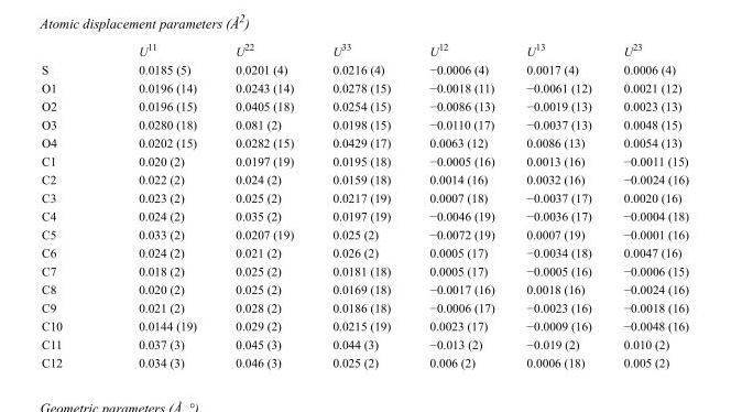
<table><thead><tr><td></td><td>U<sup>11</sup></td><td>U<sup>22</sup></td><td>U<sup>33</sup></td><td>U<sup>12</sup></td><td>U<sup>13</sup></td><td>U<sup>23</sup></td></tr></thead><tbody><tr><td>S</td><td>0.0185 (5)</td><td>0.0201 (4)</td><td>0.0216 (4)</td><td>−0.0006 (4)</td><td>0.0017 (4)</td><td>0.0006 (4)</td></tr><tr><td>O1</td><td>0.0196 (14)</td><td>0.0243 (14)</td><td>0.0278 (15)</td><td>−0.0018 (11)</td><td>−0.0061 (12)</td><td>0.0021 (12)</td></tr><tr><td>O2</td><td>0.0196 (15)</td><td>0.0405 (18)</td><td>0.0254 (15)</td><td>−0.0086 (13)</td><td>−0.0019 (13)</td><td>0.0023 (13)</td></tr><tr><td>O3</td><td>0.0280 (18)</td><td>0.081 (2)</td><td>0.0198 (15)</td><td>−0.0110 (17)</td><td>−0.0037 (13)</td><td>0.0048 (15)</td></tr><tr><td>O4</td><td>0.0202 (15)</td><td>0.0282 (15)</td><td>0.0429 (17)</td><td>0.0063 (12)</td><td>0.0086 (13)</td><td>0.0054 (13)</td></tr><tr><td>C1</td><td>0.020 (2)</td><td>0.0197 (19)</td><td>0.0195 (18)</td><td>−0.0005 (16)</td><td>0.0013 (16)</td><td>−0.0011 (15)</td></tr><tr><td>C2</td><td>0.022 (2)</td><td>0.024 (2)</td><td>0.0159 (18)</td><td>0.0014 (16)</td><td>0.0032 (16)</td><td>−0.0024 (16)</td></tr><tr><td>C3</td><td>0.023 (2)</td><td>0.025 (2)</td><td>0.0217 (19)</td><td>0.0007 (18)</td><td>−0.0037 (17)</td><td>0.0020 (16)</td></tr><tr><td>C4</td><td>0.024 (2)</td><td>0.035 (2)</td><td>0.0197 (19)</td><td>−0.0046 (19)</td><td>−0.0036 (17)</td><td>−0.0004 (18)</td></tr><tr><td>C5</td><td>0.033 (2)</td><td>0.0207 (19)</td><td>0.025 (2)</td><td>−0.0072 (19)</td><td>0.0007 (19)</td><td>−0.0001 (16)</td></tr><tr><td>C6</td><td>0.024 (2)</td><td>0.021 (2)</td><td>0.026 (2)</td><td>0.0005 (17)</td><td>−0.0034 (18)</td><td>0.0047 (16)</td></tr><tr><td>C7</td><td>0.018 (2)</td><td>0.025 (2)</td><td>0.0181 (18)</td><td>0.0005 (17)</td><td>−0.0005 (16)</td><td>−0.0006 (15)</td></tr><tr><td>C8</td><td>0.020 (2)</td><td>0.025 (2)</td><td>0.0169 (18)</td><td>−0.0017 (16)</td><td>0.0018 (16)</td><td>−0.0024 (16)</td></tr><tr><td>C9</td><td>0.021 (2)</td><td>0.028 (2)</td><td>0.0186 (18)</td><td>−0.0006 (17)</td><td>−0.0023 (16)</td><td>−0.0018 (16)</td></tr><tr><td>C10</td><td>0.0144 (19)</td><td>0.029 (2)</td><td>0.0215 (19)</td><td>0.0023 (17)</td><td>−0.0009 (16)</td><td>−0.0048 (16)</td></tr><tr><td>C11</td><td>0.037 (3)</td><td>0.045 (3)</td><td>0.044 (3)</td><td>−0.013 (2)</td><td>−0.019 (2)</td><td>0.010 (2)</td></tr><tr><td>C12</td><td>0.034 (3)</td><td>0.046 (3)</td><td>0.025 (2)</td><td>0.006 (2)</td><td>0.0006 (18)</td><td>0.005 (2)</td></tr></tbody></table>